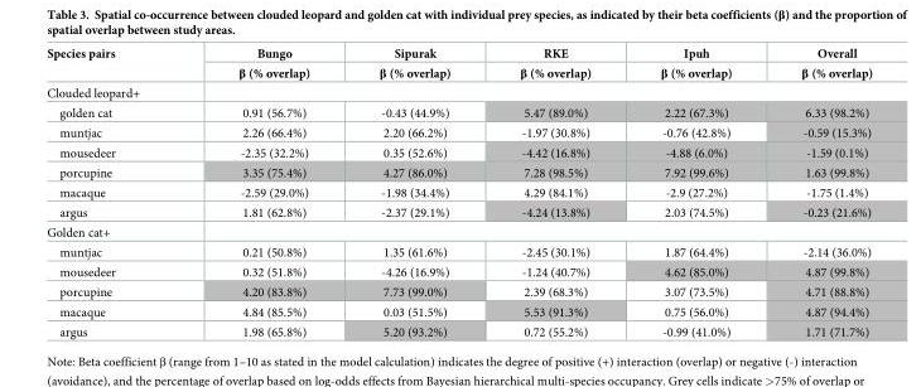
<table><thead><tr><td rowspan="2">Species pairs</td><td rowspan="2">Bungo β (% overlap)</td><td rowspan="2">Sipurak β (% overlap)</td><td rowspan="2">RKE β (% overlap)</td><td rowspan="2">Ipuh β (% overlap)</td><td rowspan="2">Overall β (% overlap)</td></tr><tr></tr></thead><tbody><tr><td colspan="6">Clouded leopard+</td></tr><tr><td>golden cat</td><td>0.91 (56.7%)</td><td>-0.43 (44.9%)</td><td>5.47 (89.0%)</td><td>2.22 (67.3%)</td><td>6.33 (98.2%)</td></tr><tr><td>muntjac</td><td>2.26 (66.4%)</td><td>2.20 (66.2%)</td><td>-1.97 (30.8%)</td><td>-0.76 (42.8%)</td><td>-0.59 (15.3%)</td></tr><tr><td>mousedeer</td><td>-2.35 (32.2%)</td><td>0.35 (52.6%)</td><td>-4.42 (16.8%)</td><td>-4.88 (6.0%)</td><td>-1.59 (0.1%)</td></tr><tr><td>porcupine</td><td>3.35 (75.4%)</td><td>4.27 (86.0%)</td><td>7.28 (98.5%)</td><td>7.92 (99.6%)</td><td>1.63 (99.8%)</td></tr><tr><td>macaque</td><td>-2.59 (29.0%)</td><td>-1.98 (34.4%)</td><td>4.29 (84.1%)</td><td>-2.9 (27.2%)</td><td>-1.75 (1.4%)</td></tr><tr><td>argus</td><td>1.81 (62.8%)</td><td>-2.37 (29.1%)</td><td>-4.24 (13.8%)</td><td>2.03 (74.5%)</td><td>-0.23 (21.6%)</td></tr><tr><td colspan="6">Golden cat+</td></tr><tr><td>muntjac</td><td>0.21 (50.8%)</td><td>1.35 (61.6%)</td><td>-2.45 (30.1%)</td><td>1.87 (64.4%)</td><td>-2.14 (36.0%)</td></tr><tr><td>mousedeer</td><td>0.32 (51.8%)</td><td>-4.26 (16.9%)</td><td>-1.24 (40.7%)</td><td>4.62 (85.0%)</td><td>4.87 (99.8%)</td></tr><tr><td>porcupine</td><td>4.20 (83.8%)</td><td>7.73 (99.0%)</td><td>2.39 (68.3%)</td><td>3.07 (73.5%)</td><td>4.71 (88.8%)</td></tr><tr><td>macaque</td><td>4.84 (85.5%)</td><td>0.03 (51.5%)</td><td>5.53 (91.3%)</td><td>0.75 (56.0%)</td><td>4.87 (94.4%)</td></tr><tr><td>argus</td><td>1.98 (65.8%)</td><td>5.20 (93.2%)</td><td>0.72 (55.2%)</td><td>-0.99 (41.0%)</td><td>1.71 (71.7%)</td></tr></tbody></table>